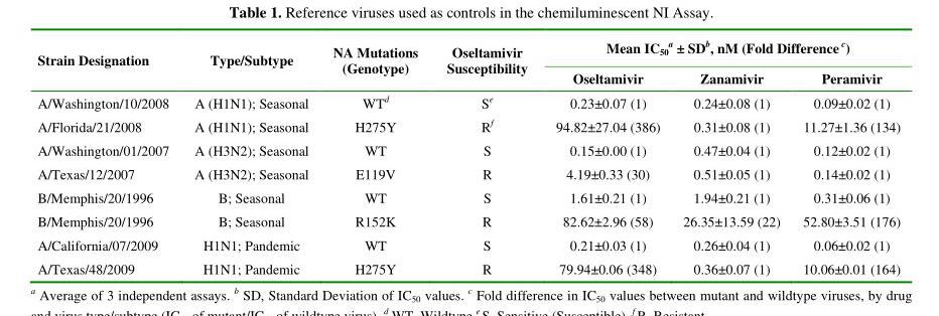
<table><thead><tr><td rowspan="2">Strain Designation</td><td rowspan="2">Type/Subtype</td><td rowspan="2">NA Mutations (Genotype)</td><td rowspan="2">Oseltamivir Susceptibility</td><td colspan="3">Mean IC<sub>50</sub> <sup>a</sup> ± SD<sup>b</sup>, nM (Fold Difference <sup>c</sup>)</td></tr><tr><td>Oseltamivir</td><td>Zanamivir</td><td>Peramivir</td></tr></thead><tbody><tr><td>A/Washington/10/2008</td><td>A (H1N1); Seasonal</td><td>WT<sup>d</sup></td><td>S<sup>e</sup></td><td>0.23±0.07 (1)</td><td>0.24±0.08 (1)</td><td>0.09±0.02 (1)</td></tr><tr><td>A/Florida/21/2008</td><td>A (H1N1); Seasonal</td><td>H275Y</td><td>R<sup>f</sup></td><td>94.82±27.04 (386)</td><td>0.31±0.08 (1)</td><td>11.27±1.36 (134)</td></tr><tr><td>A/Washington/01/2007</td><td>A (H3N2); Seasonal</td><td>WT</td><td>S</td><td>0.15±0.00 (1)</td><td>0.47±0.04 (1)</td><td>0.12±0.02 (1)</td></tr><tr><td>A/Texas/12/2007</td><td>A (H3N2); Seasonal</td><td>E119V</td><td>R</td><td>4.19±0.33 (30)</td><td>0.51±0.05 (1)</td><td>0.14±0.02 (1)</td></tr><tr><td>B/Memphis/20/1996</td><td>B; Seasonal</td><td>WT</td><td>S</td><td>1.61±0.21 (1)</td><td>1.94±0.21 (1)</td><td>0.31±0.06 (1)</td></tr><tr><td>B/Memphis/20/1996</td><td>B; Seasonal</td><td>R152K</td><td>R</td><td>82.62±2.96 (58)</td><td>26.35±13.59 (22)</td><td>52.80±3.51 (176)</td></tr><tr><td>A/California/07/2009</td><td>H1N1; Pandemic</td><td>WT</td><td>S</td><td>0.21±0.03 (1)</td><td>0.26±0.04 (1)</td><td>0.06±0.02 (1)</td></tr><tr><td>A/Texas/48/2009</td><td>H1N1; Pandemic</td><td>H275Y</td><td>R</td><td>79.94±0.06 (348)</td><td>0.36±0.07 (1)</td><td>10.06±0.01 (164)</td></tr></tbody></table>